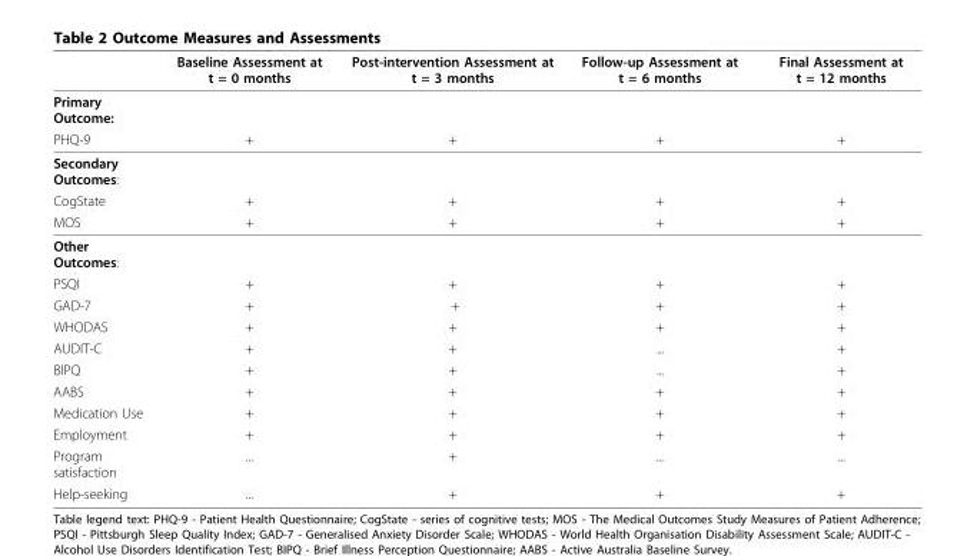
<table><thead><tr><td></td><td>Baseline Assessment at t = 0 months</td><td>Post-intervention Assessment at t = 3 months</td><td>Follow-up Assessment at t = 6 months</td><td>Final Assessment at t = 12 months</td></tr></thead><tbody><tr><td colspan="5">Primary Outcome:</td></tr><tr><td>PHQ-9</td><td>+</td><td>+</td><td>+</td><td>+</td></tr><tr><td colspan="5">Secondary Outcomes:</td></tr><tr><td>CogState</td><td>+</td><td>+</td><td>+</td><td>+</td></tr><tr><td>MOS</td><td>+</td><td>+</td><td>+</td><td>+</td></tr><tr><td colspan="5">Other Outcomes:</td></tr><tr><td>PSQI</td><td>+</td><td>+</td><td>+</td><td>+</td></tr><tr><td>GAD-7</td><td>+</td><td>+</td><td>+</td><td>+</td></tr><tr><td>WHODAS</td><td>+</td><td>+</td><td>+</td><td>+</td></tr><tr><td>AUDIT-C</td><td>+</td><td>+</td><td>...</td><td>+</td></tr><tr><td>BIPQ</td><td>+</td><td>+</td><td>...</td><td>+</td></tr><tr><td>AABS</td><td>+</td><td>+</td><td>+</td><td>+</td></tr><tr><td>Medication Use</td><td>+</td><td>+</td><td>+</td><td>+</td></tr><tr><td>Employment</td><td>+</td><td>+</td><td>+</td><td>+</td></tr><tr><td>Program satisfaction</td><td>...</td><td>+</td><td>...</td><td>...</td></tr><tr><td>Help-seeking</td><td>...</td><td>+</td><td>+</td><td>+</td></tr></tbody></table>